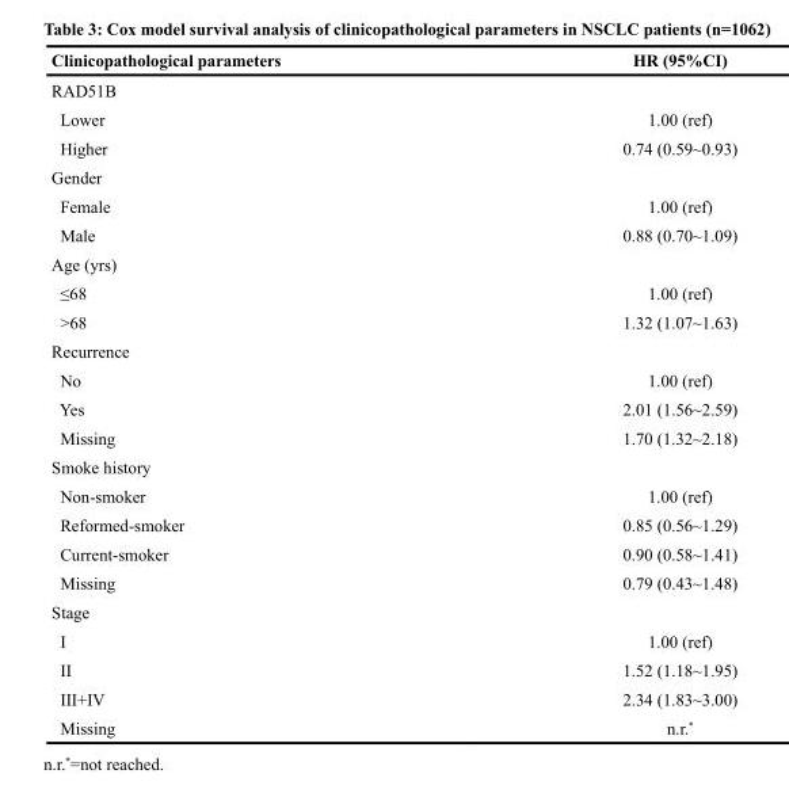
<table><thead><tr><td>Clinicopathological parameters</td><td>HR (95%CI)</td></tr></thead><tbody><tr><td colspan="2">RAD51B</td></tr><tr><td>Lower</td><td>1.00 (ref)</td></tr><tr><td>Higher</td><td>0.74 (0.59~0.93)</td></tr><tr><td colspan="2">Gender</td></tr><tr><td>Female</td><td>1.00 (ref)</td></tr><tr><td>Male</td><td>0.88 (0.70~1.09)</td></tr><tr><td colspan="2">Age (yrs)</td></tr><tr><td>≤68</td><td>1.00 (ref)</td></tr><tr><td>&gt;68</td><td>1.32 (1.07~1.63)</td></tr><tr><td colspan="2">Recurrence</td></tr><tr><td>No</td><td>1.00 (ref)</td></tr><tr><td>Yes</td><td>2.01 (1.56~2.59)</td></tr><tr><td>Missing</td><td>1.70 (1.32~2.18)</td></tr><tr><td colspan="2">Smoke history</td></tr><tr><td>Non-smoker</td><td>1.00 (ref)</td></tr><tr><td>Reformed-smoker</td><td>0.85 (0.56~1.29)</td></tr><tr><td>Current-smoker</td><td>0.90 (0.58~1.41)</td></tr><tr><td>Missing</td><td>0.79 (0.43~1.48)</td></tr><tr><td colspan="2">Stage</td></tr><tr><td>I</td><td>1.00 (ref)</td></tr><tr><td>II</td><td>1.52 (1.18~1.95)</td></tr><tr><td>III+IV</td><td>2.34 (1.83~3.00)</td></tr><tr><td>Missing</td><td>n.r.*</td></tr></tbody></table>